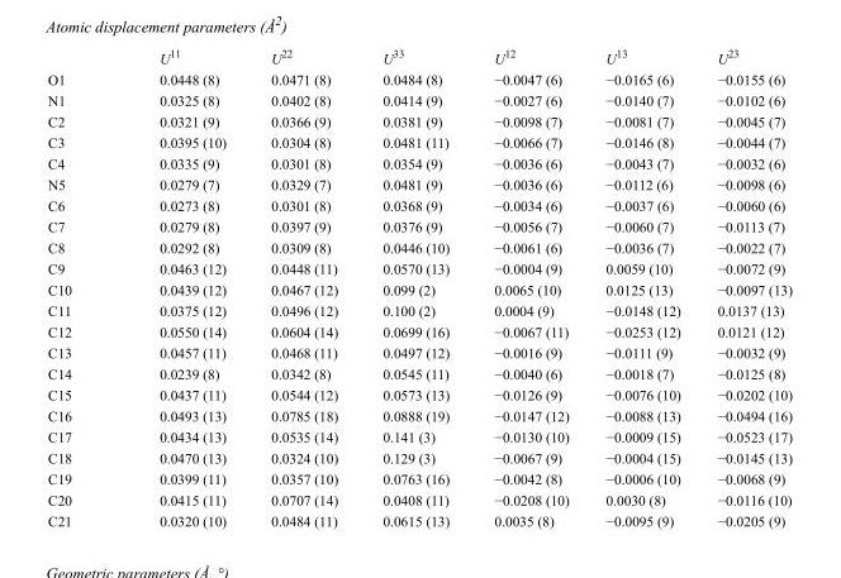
<table><thead><tr><td></td><td>U<sup>11</sup></td><td>U<sup>22</sup></td><td>U<sup>33</sup></td><td>U<sup>12</sup></td><td>U<sup>13</sup></td><td>U<sup>23</sup></td></tr></thead><tbody><tr><td>O1</td><td>0.0448 (8)</td><td>0.0471 (8)</td><td>0.0484 (8)</td><td>−0.0047 (6)</td><td>−0.0165 (6)</td><td>−0.0155 (6)</td></tr><tr><td>N1</td><td>0.0325 (8)</td><td>0.0402 (8)</td><td>0.0414 (9)</td><td>−0.0027 (6)</td><td>−0.0140 (7)</td><td>−0.0102 (6)</td></tr><tr><td>C2</td><td>0.0321 (9)</td><td>0.0366 (9)</td><td>0.0381 (9)</td><td>−0.0098 (7)</td><td>−0.0081 (7)</td><td>−0.0045 (7)</td></tr><tr><td>C3</td><td>0.0395 (10)</td><td>0.0304 (8)</td><td>0.0481 (11)</td><td>−0.0066 (7)</td><td>−0.0146 (8)</td><td>−0.0044 (7)</td></tr><tr><td>C4</td><td>0.0335 (9)</td><td>0.0301 (8)</td><td>0.0354 (9)</td><td>−0.0036 (6)</td><td>−0.0043 (7)</td><td>−0.0032 (6)</td></tr><tr><td>N5</td><td>0.0279 (7)</td><td>0.0329 (7)</td><td>0.0481 (9)</td><td>−0.0036 (6)</td><td>−0.0112 (6)</td><td>−0.0098 (6)</td></tr><tr><td>C6</td><td>0.0273 (8)</td><td>0.0301 (8)</td><td>0.0368 (9)</td><td>−0.0034 (6)</td><td>−0.0037 (6)</td><td>−0.0060 (6)</td></tr><tr><td>C7</td><td>0.0279 (8)</td><td>0.0397 (9)</td><td>0.0376 (9)</td><td>−0.0056 (7)</td><td>−0.0060 (7)</td><td>−0.0113 (7)</td></tr><tr><td>C8</td><td>0.0292 (8)</td><td>0.0309 (8)</td><td>0.0446 (10)</td><td>−0.0061 (6)</td><td>−0.0036 (7)</td><td>−0.0022 (7)</td></tr><tr><td>C9</td><td>0.0463 (12)</td><td>0.0448 (11)</td><td>0.0570 (13)</td><td>−0.0004 (9)</td><td>0.0059 (10)</td><td>−0.0072 (9)</td></tr><tr><td>C10</td><td>0.0439 (12)</td><td>0.0467 (12)</td><td>0.099 (2)</td><td>0.0065 (10)</td><td>0.0125 (13)</td><td>−0.0097 (13)</td></tr><tr><td>C11</td><td>0.0375 (12)</td><td>0.0496 (12)</td><td>0.100 (2)</td><td>0.0004 (9)</td><td>−0.0148 (12)</td><td>0.0137 (13)</td></tr><tr><td>C12</td><td>0.0550 (14)</td><td>0.0604 (14)</td><td>0.0699 (16)</td><td>−0.0067 (11)</td><td>−0.0253 (12)</td><td>0.0121 (12)</td></tr><tr><td>C13</td><td>0.0457 (11)</td><td>0.0468 (11)</td><td>0.0497 (12)</td><td>−0.0016 (9)</td><td>−0.0111 (9)</td><td>−0.0032 (9)</td></tr><tr><td>C14</td><td>0.0239 (8)</td><td>0.0342 (8)</td><td>0.0545 (11)</td><td>−0.0040 (6)</td><td>−0.0018 (7)</td><td>−0.0125 (8)</td></tr><tr><td>C15</td><td>0.0437 (11)</td><td>0.0544 (12)</td><td>0.0573 (13)</td><td>−0.0126 (9)</td><td>−0.0076 (10)</td><td>−0.0202 (10)</td></tr><tr><td>C16</td><td>0.0493 (13)</td><td>0.0785 (18)</td><td>0.0888 (19)</td><td>−0.0147 (12)</td><td>−0.0088 (13)</td><td>−0.0494 (16)</td></tr><tr><td>C17</td><td>0.0434 (13)</td><td>0.0535 (14)</td><td>0.141 (3)</td><td>−0.0130 (10)</td><td>−0.0009 (15)</td><td>−0.0523 (17)</td></tr><tr><td>C18</td><td>0.0470 (13)</td><td>0.0324 (10)</td><td>0.129 (3)</td><td>−0.0067 (9)</td><td>−0.0004 (15)</td><td>−0.0145 (13)</td></tr><tr><td>C19</td><td>0.0399 (11)</td><td>0.0357 (10)</td><td>0.0763 (16)</td><td>−0.0042 (8)</td><td>−0.0006 (10)</td><td>−0.0068 (9)</td></tr><tr><td>C20</td><td>0.0415 (11)</td><td>0.0707 (14)</td><td>0.0408 (11)</td><td>−0.0208 (10)</td><td>0.0030 (8)</td><td>−0.0116 (10)</td></tr><tr><td>C21</td><td>0.0320 (10)</td><td>0.0484 (11)</td><td>0.0615 (13)</td><td>0.0035 (8)</td><td>−0.0095 (9)</td><td>−0.0205 (9)</td></tr></tbody></table>